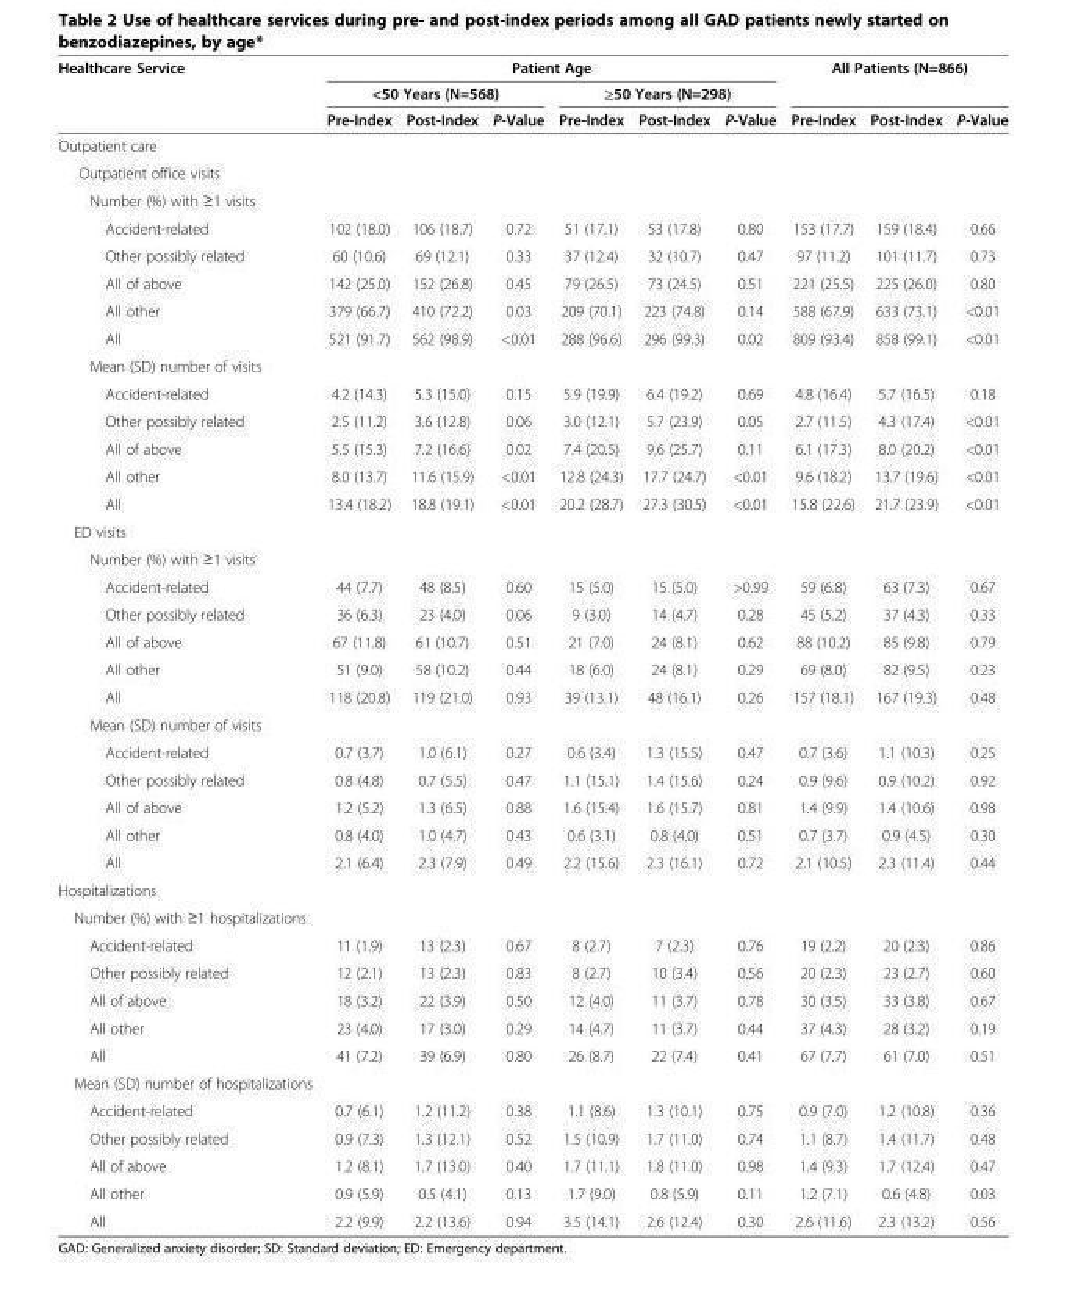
<table><thead><tr><td rowspan="3">Healthcare Service</td><td colspan="6">Patient Age</td><td rowspan="2" colspan="3">All Patients (N=866)</td></tr><tr><td colspan="3">&lt;50 Years (N=568)</td><td colspan="3">≥50 Years (N=298)</td></tr><tr><td>Pre-Index</td><td>Post-Index</td><td>P-Value</td><td>Pre-Index</td><td>Post-Index</td><td>P-Value</td><td>Pre-Index</td><td>Post-Index</td><td>P-Value</td></tr></thead><tbody><tr><td colspan="10">Outpatient care</td></tr><tr><td colspan="10">Outpatient office visits</td></tr><tr><td colspan="10">Number (%) with ≥1 visits</td></tr><tr><td>Accident-related</td><td>102 (18.0)</td><td>106 (18.7)</td><td>0.72</td><td>51 (17.1)</td><td>53 (17.8)</td><td>0.80</td><td>153 (17.7)</td><td>159 (18.4)</td><td>0.66</td></tr><tr><td>Other possibly related</td><td>60 (10.6)</td><td>69 (12.1)</td><td>0.33</td><td>37 (12.4)</td><td>32 (10.7)</td><td>0.47</td><td>97 (11.2)</td><td>101 (11.7)</td><td>0.73</td></tr><tr><td>All of above</td><td>142 (25.0)</td><td>152 (26.8)</td><td>0.45</td><td>79 (26.5)</td><td>73 (24.5)</td><td>0.51</td><td>221 (25.5)</td><td>225 (26.0)</td><td>0.80</td></tr><tr><td>All other</td><td>379 (66.7)</td><td>410 (72.2)</td><td>0.03</td><td>209 (70.1)</td><td>223 (74.8)</td><td>0.14</td><td>588 (67.9)</td><td>633 (73.1)</td><td>&lt;0.01</td></tr><tr><td>All</td><td>521 (91.7)</td><td>562 (98.9)</td><td>&lt;0.01</td><td>288 (96.6)</td><td>296 (99.3)</td><td>0.02</td><td>809 (93.4)</td><td>858 (99.1)</td><td>&lt;0.01</td></tr><tr><td colspan="10">Mean (SD) number of visits</td></tr><tr><td>Accident-related</td><td>4.2 (14.3)</td><td>5.3 (15.0)</td><td>0.15</td><td>5.9 (19.9)</td><td>6.4 (19.2)</td><td>0.69</td><td>4.8 (16.4)</td><td>5.7 (16.5)</td><td>0.18</td></tr><tr><td>Other possibly related</td><td>2.5 (11.2)</td><td>3.6 (12.8)</td><td>0.06</td><td>3.0 (12.1)</td><td>5.7 (23.9)</td><td>0.05</td><td>2.7 (11.5)</td><td>4.3 (17.4)</td><td>&lt;0.01</td></tr><tr><td>All of above</td><td>5.5 (15.3)</td><td>7.2 (16.6)</td><td>0.02</td><td>7.4 (20.5)</td><td>9.6 (25.7)</td><td>0.11</td><td>6.1 (17.3)</td><td>8.0 (20.2)</td><td>&lt;0.01</td></tr><tr><td>All other</td><td>8.0 (13.7)</td><td>11.6 (15.9)</td><td>&lt;0.01</td><td>12.8 (24.3)</td><td>17.7 (24.7)</td><td>&lt;0.01</td><td>9.6 (18.2)</td><td>13.7 (19.6)</td><td>&lt;0.01</td></tr><tr><td>All</td><td>13.4 (18.2)</td><td>18.8 (19.1)</td><td>&lt;0.01</td><td>20.2 (28.7)</td><td>27.3 (30.5)</td><td>&lt;0.01</td><td>15.8 (22.6)</td><td>21.7 (23.9)</td><td>&lt;0.01</td></tr><tr><td colspan="10">ED visits</td></tr><tr><td colspan="10">Number (%) with ≥1 visits</td></tr><tr><td>Accident-related</td><td>44 (7.7)</td><td>48 (8.5)</td><td>0.60</td><td>15 (5.0)</td><td>15 (5.0)</td><td>&gt;0.99</td><td>59 (6.8)</td><td>63 (7.3)</td><td>0.67</td></tr><tr><td>Other possibly related</td><td>36 (6.3)</td><td>23 (4.0)</td><td>0.06</td><td>9 (3.0)</td><td>14 (4.7)</td><td>0.28</td><td>45 (5.2)</td><td>37 (4.3)</td><td>0.33</td></tr><tr><td>All of above</td><td>67 (11.8)</td><td>61 (10.7)</td><td>0.51</td><td>21 (7.0)</td><td>24 (8.1)</td><td>0.62</td><td>88 (10.2)</td><td>85 (9.8)</td><td>0.79</td></tr><tr><td>All other</td><td>51 (9.0)</td><td>58 (10.2)</td><td>0.44</td><td>18 (6.0)</td><td>24 (8.1)</td><td>0.29</td><td>69 (8.0)</td><td>82 (9.5)</td><td>0.23</td></tr><tr><td>All</td><td>118 (20.8)</td><td>119 (21.0)</td><td>0.93</td><td>39 (13.1)</td><td>48 (16.1)</td><td>0.26</td><td>157 (18.1)</td><td>167 (19.3)</td><td>0.48</td></tr><tr><td colspan="10">Mean (SD) number of visits</td></tr><tr><td>Accident-related</td><td>0.7 (3.7)</td><td>1.0 (6.1)</td><td>0.27</td><td>0.6 (3.4)</td><td>1.3 (15.5)</td><td>0.47</td><td>0.7 (3.6)</td><td>1.1 (10.3)</td><td>0.25</td></tr><tr><td>Other possibly related</td><td>0.8 (4.8)</td><td>0.7 (5.5)</td><td>0.47</td><td>1.1 (15.1)</td><td>1.4 (15.6)</td><td>0.24</td><td>0.9 (9.6)</td><td>0.9 (10.2)</td><td>0.92</td></tr><tr><td>All of above</td><td>1.2 (5.2)</td><td>1.3 (6.5)</td><td>0.88</td><td>1.6 (15.4)</td><td>1.6 (15.7)</td><td>0.81</td><td>1.4 (9.9)</td><td>1.4 (10.6)</td><td>0.98</td></tr><tr><td>All other</td><td>0.8 (4.0)</td><td>1.0 (4.7)</td><td>0.43</td><td>0.6 (3.1)</td><td>0.8 (4.0)</td><td>0.51</td><td>0.7 (3.7)</td><td>0.9 (4.5)</td><td>0.30</td></tr><tr><td>All</td><td>2.1 (6.4)</td><td>2.3 (7.9)</td><td>0.49</td><td>2.2 (15.6)</td><td>2.3 (16.1)</td><td>0.72</td><td>2.1 (10.5)</td><td>2.3 (11.4)</td><td>0.44</td></tr><tr><td colspan="10">Hospitalizations</td></tr><tr><td colspan="10">Number (%) with ≥1 hospitalizations</td></tr><tr><td>Accident-related</td><td>11 (1.9)</td><td>13 (2.3)</td><td>0.67</td><td>8 (2.7)</td><td>7 (2.3)</td><td>0.76</td><td>19 (2.2)</td><td>20 (2.3)</td><td>0.86</td></tr><tr><td>Other possibly related</td><td>12 (2.1)</td><td>13 (2.3)</td><td>0.83</td><td>8 (2.7)</td><td>10 (3.4)</td><td>0.56</td><td>20 (2.3)</td><td>23 (2.7)</td><td>0.60</td></tr><tr><td>All of above</td><td>18 (3.2)</td><td>22 (3.9)</td><td>0.50</td><td>12 (4.0)</td><td>11 (3.7)</td><td>0.78</td><td>30 (3.5)</td><td>33 (3.8)</td><td>0.67</td></tr><tr><td>All other</td><td>23 (4.0)</td><td>17 (3.0)</td><td>0.29</td><td>14 (4.7)</td><td>11 (3.7)</td><td>0.44</td><td>37 (4.3)</td><td>28 (3.2)</td><td>0.19</td></tr><tr><td>All</td><td>41 (7.2)</td><td>39 (6.9)</td><td>0.80</td><td>26 (8.7)</td><td>22 (7.4)</td><td>0.41</td><td>67 (7.7)</td><td>61 (7.0)</td><td>0.51</td></tr><tr><td colspan="10">Mean (SD) number of hospitalizations</td></tr><tr><td>Accident-related</td><td>0.7 (6.1)</td><td>1.2 (11.2)</td><td>0.38</td><td>1.1 (8.6)</td><td>1.3 (10.1)</td><td>0.75</td><td>0.9 (7.0)</td><td>1.2 (10.8)</td><td>0.36</td></tr><tr><td>Other possibly related</td><td>0.9 (7.3)</td><td>1.3 (12.1)</td><td>0.52</td><td>1.5 (10.9)</td><td>1.7 (11.0)</td><td>0.74</td><td>1.1 (8.7)</td><td>1.4 (11.7)</td><td>0.48</td></tr><tr><td>All of above</td><td>1.2 (8.1)</td><td>1.7 (13.0)</td><td>0.40</td><td>1.7 (11.1)</td><td>1.8 (11.0)</td><td>0.98</td><td>1.4 (9.3)</td><td>1.7 (12.4)</td><td>0.47</td></tr><tr><td>All other</td><td>0.9 (5.9)</td><td>0.5 (4.1)</td><td>0.13</td><td>1.7 (9.0)</td><td>0.8 (5.9)</td><td>0.11</td><td>1.2 (7.1)</td><td>0.6 (4.8)</td><td>0.03</td></tr><tr><td>All</td><td>2.2 (9.9)</td><td>2.2 (13.6)</td><td>0.94</td><td>3.5 (14.1)</td><td>2.6 (12.4)</td><td>0.30</td><td>2.6 (11.6)</td><td>2.3 (13.2)</td><td>0.56</td></tr></tbody></table>